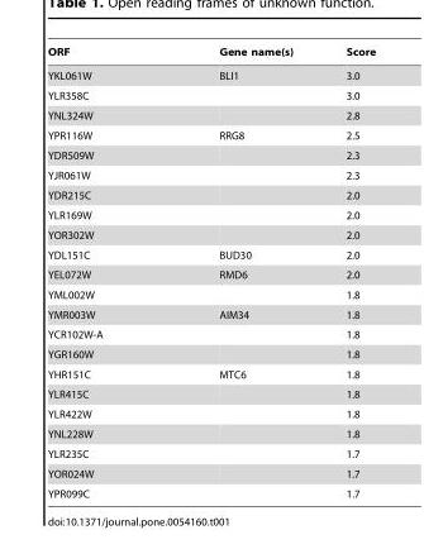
<table><thead><tr><td>ORF</td><td>Gene name(s)</td><td>Score</td></tr></thead><tbody><tr><td>YKL061W</td><td>BLI1</td><td>3.0</td></tr><tr><td>YLR358C</td><td></td><td>3.0</td></tr><tr><td>YNL324W</td><td></td><td>2.8</td></tr><tr><td>YPR116W</td><td>RRG8</td><td>2.5</td></tr><tr><td>YDR509W</td><td></td><td>2.3</td></tr><tr><td>YJR061W</td><td></td><td>2.3</td></tr><tr><td>YDR215C</td><td></td><td>2.0</td></tr><tr><td>YLR169W</td><td></td><td>2.0</td></tr><tr><td>YOR302W</td><td></td><td>2.0</td></tr><tr><td>YDL151C</td><td>BUD30</td><td>2.0</td></tr><tr><td>YEL072W</td><td>RMD6</td><td>2.0</td></tr><tr><td>YML002W</td><td></td><td>1.8</td></tr><tr><td>YMR003W</td><td>AIM34</td><td>1.8</td></tr><tr><td>YCR102W-A</td><td></td><td>1.8</td></tr><tr><td>YGR160W</td><td></td><td>1.8</td></tr><tr><td>YHR151C</td><td>MTC6</td><td>1.8</td></tr><tr><td>YLR415C</td><td></td><td>1.8</td></tr><tr><td>YLR422W</td><td></td><td>1.8</td></tr><tr><td>YNL228W</td><td></td><td>1.8</td></tr><tr><td>YLR235C</td><td></td><td>1.7</td></tr><tr><td>YOR024W</td><td></td><td>1.7</td></tr><tr><td>YPR099C</td><td></td><td>1.7</td></tr></tbody></table>